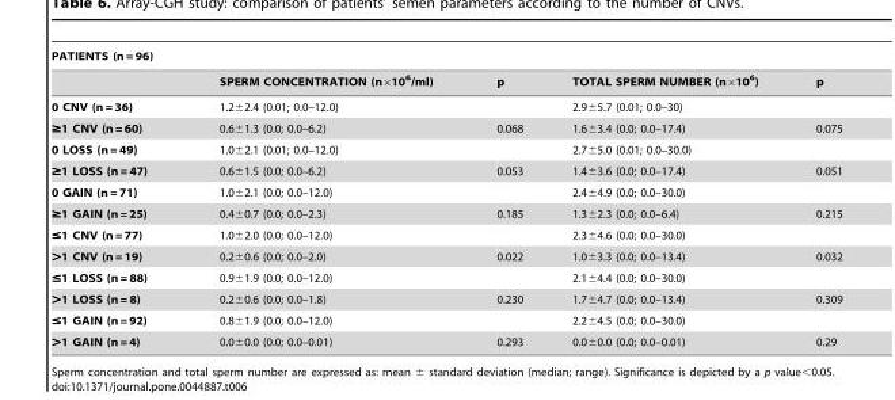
<table><thead><tr><td colspan="5">PATIENTS (n = 96)</td></tr><tr><td></td><td>SPERM CONCENTRATION (n×10<sup>6</sup>/ml)</td><td>p</td><td>TOTAL SPERM NUMBER (n×10<sup>6</sup>)</td><td>p</td></tr></thead><tbody><tr><td>0 CNV (n = 36)</td><td>1.2±2.4 (0.01; 0.0–12.0)</td><td></td><td>2.9±5.7 (0.01; 0.0–30)</td><td></td></tr><tr><td>≥1 CNV (n = 60)</td><td>0.6±1.3 (0.0; 0.0–6.2)</td><td>0.068</td><td>1.6±3.4 (0.0; 0.0–17.4)</td><td>0.075</td></tr><tr><td>0 LOSS (n = 49)</td><td>1.0±2.1 (0.01; 0.0–12.0)</td><td></td><td>2.7±5.0 (0.01; 0.0–30.0)</td><td></td></tr><tr><td>≥1 LOSS (n = 47)</td><td>0.6±1.5 (0.0; 0.0–6.2)</td><td>0.053</td><td>1.4±3.6 (0.0; 0.0–17.4)</td><td>0.051</td></tr><tr><td>0 GAIN (n = 71)</td><td>1.0±2.1 (0.0; 0.0–12.0)</td><td></td><td>2.4±4.9 (0.0; 0.0–30.0)</td><td></td></tr><tr><td>≥1 GAIN (n = 25)</td><td>0.4±0.7 (0.0; 0.0–2.3)</td><td>0.185</td><td>1.3±2.3 (0.0; 0.0–6.4)</td><td>0.215</td></tr><tr><td>≤1 CNV (n = 77)</td><td>1.0±2.0 (0.0; 0.0–12.0)</td><td></td><td>2.3±4.6 (0.0; 0.0–30.0)</td><td></td></tr><tr><td>&gt;1 CNV (n = 19)</td><td>0.2±0.6 (0.0; 0.0–2.0)</td><td>0.022</td><td>1.0±3.3 (0.0; 0.0–13.4)</td><td>0.032</td></tr><tr><td>≤1 LOSS (n = 88)</td><td>0.9±1.9 (0.0; 0.0–12.0)</td><td></td><td>2.1±4.4 (0.0; 0.0–30.0)</td><td></td></tr><tr><td>&gt;1 LOSS (n = 8)</td><td>0.2±0.6 (0.0; 0.0–1.8)</td><td>0.230</td><td>1.7±4.7 (0.0; 0.0–13.4)</td><td>0.309</td></tr><tr><td>≤1 GAIN (n = 92)</td><td>0.8±1.9 (0.0; 0.0–12.0)</td><td></td><td>2.2±4.5 (0.0; 0.0–30.0)</td><td></td></tr><tr><td>&gt;1 GAIN (n = 4)</td><td>0.0±0.0 (0.0; 0.0–0.01)</td><td>0.293</td><td>0.0±0.0 (0.0; 0.0–0.01)</td><td>0.29</td></tr></tbody></table>